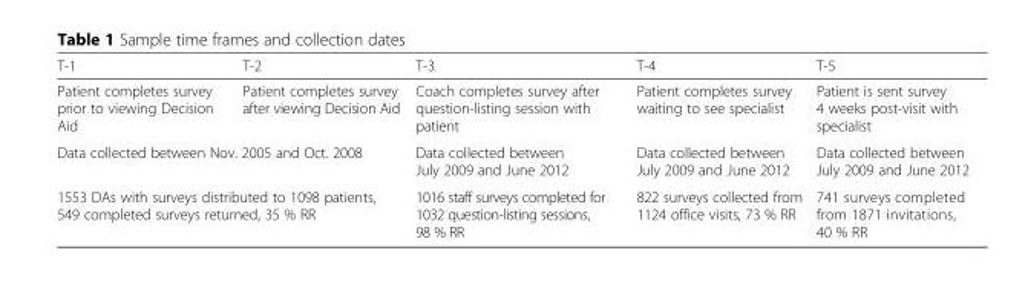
<table><thead><tr><td>T-1</td><td>T-2</td><td>T-3</td><td>T-4</td><td>T-5</td></tr></thead><tbody><tr><td>Patient completes survey prior to viewing Decision Aid</td><td>Patient completes survey after viewing Decision Aid</td><td>Coach completes survey after question-listing session with patient</td><td>Patient completes survey waiting to see specialist</td><td>Patient is sent survey 4 weeks post-visit with specialist</td></tr><tr><td colspan="2">Data collected between Nov. 2005 and Oct. 2008</td><td>Data collected between July 2009 and June 2012</td><td>Data collected between July 2009 and June 2012</td><td>Data collected between July 2009 and June 2012</td></tr><tr><td colspan="2">1553 DAs with surveys distributed to 1098 patients, 549 completed surveys returned, 35 % RR</td><td>1016 staff surveys completed for 1032 question-listing sessions, 98 % RR</td><td>822 surveys collected from 1124 office visits, 73 % RR</td><td>741 surveys completed from 1871 invitations, 40 % RR</td></tr></tbody></table>